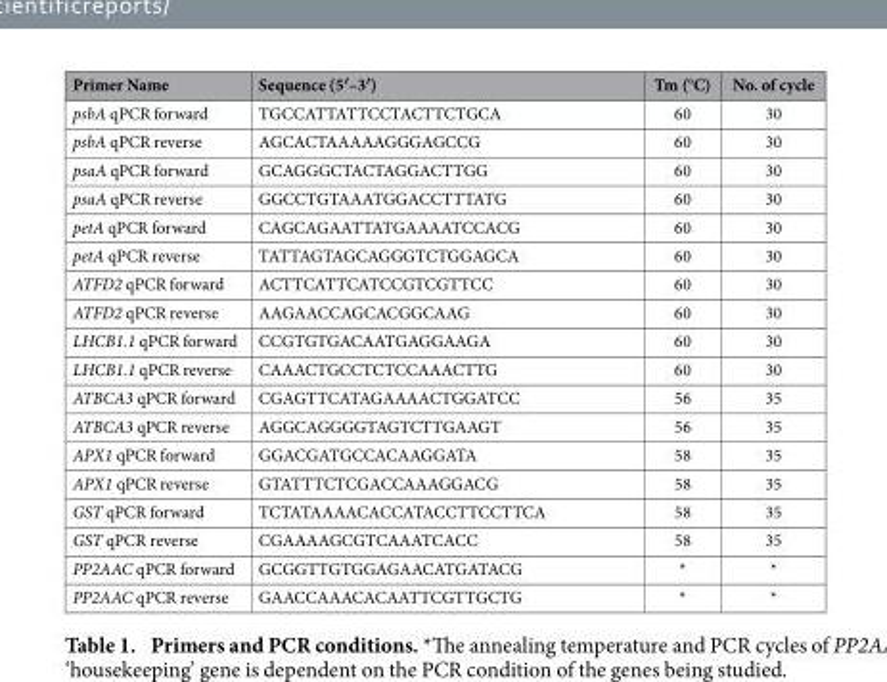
<table><thead><tr><td>Primer Name</td><td>Sequence (5′–3′)</td><td>Tm (°C)</td><td>No. of cycle</td></tr></thead><tbody><tr><td>psbA qPCR forward</td><td>TGCCATTATTCCTACTTCTGCA</td><td>60</td><td>30</td></tr><tr><td>psbA qPCR reverse</td><td>AGCACTAAAAAGGGAGCCG</td><td>60</td><td>30</td></tr><tr><td>psaA qPCR forward</td><td>GCAGGGCTACTAGGACTTGG</td><td>60</td><td>30</td></tr><tr><td>psaA qPCR reverse</td><td>GGCCTGTAAATGGACCTTTATG</td><td>60</td><td>30</td></tr><tr><td>petA qPCR forward</td><td>CAGCAGAATTATGAAAATCCACG</td><td>60</td><td>30</td></tr><tr><td>petA qPCR reverse</td><td>TATTAGTAGCAGGGTCTGGAGCA</td><td>60</td><td>30</td></tr><tr><td>ATFD2 qPCR forward</td><td>ACTTCATTCATCCGTCGTTCC</td><td>60</td><td>30</td></tr><tr><td>ATFD2 qPCR reverse</td><td>AAGAACCAGCACGGCAAG</td><td>60</td><td>30</td></tr><tr><td>LHCB1.1 qPCR forward</td><td>CCGTGTGACAATGAGGAAGA</td><td>60</td><td>30</td></tr><tr><td>LHCB1.1 qPCR reverse</td><td>CAAACTGCCTCTCCAAACTTG</td><td>60</td><td>30</td></tr><tr><td>ATBCA3 qPCR forward</td><td>CGAGTTCATAGAAAACTGGATCC</td><td>56</td><td>35</td></tr><tr><td>ATBCA3 qPCR reverse</td><td>AGGCAGGGGTAGTCTTGAAGT</td><td>56</td><td>35</td></tr><tr><td>APX1 qPCR forward</td><td>GGACGATGCCACAAGGATA</td><td>58</td><td>35</td></tr><tr><td>APX1 qPCR reverse</td><td>GTATTTCTCGACCAAAGGACG</td><td>58</td><td>35</td></tr><tr><td>GST qPCR forward</td><td>TCTATAAAACACCATACCTTCCTTCA</td><td>58</td><td>35</td></tr><tr><td>GST qPCR reverse</td><td>CGAAAAGCGTCAAATCACC</td><td>58</td><td>35</td></tr><tr><td>PP2AAC qPCR forward</td><td>GCGGTTGTGGAGAACATGATACG</td><td>*</td><td>*</td></tr><tr><td>PP2AAC qPCR reverse</td><td>GAACCAAACACAATTCGTTGCTG</td><td>*</td><td>*</td></tr></tbody></table>